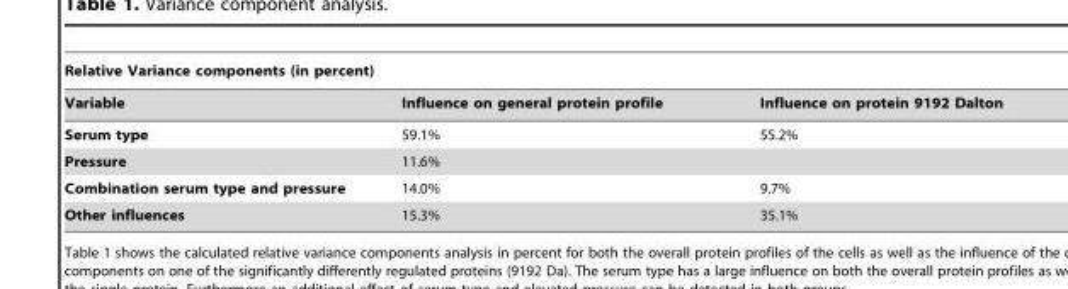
<table><thead><tr><td colspan="3">Relative Variance components (in percent)</td></tr><tr><td>Variable</td><td>Influence on general protein profile</td><td>Influence on protein 9192 Dalton</td></tr></thead><tbody><tr><td>Serum type</td><td>59.1%</td><td>55.2%</td></tr><tr><td>Pressure</td><td>11.6%</td><td></td></tr><tr><td>Combination serum type and pressure</td><td>14.0%</td><td>9.7%</td></tr><tr><td>Other influences</td><td>15.3%</td><td>35.1%</td></tr></tbody></table>